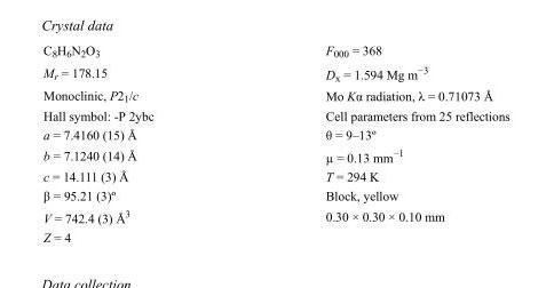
<table><tbody><tr><td>C<sub>8</sub>H<sub>6</sub>N<sub>2</sub>O<sub>3</sub></td><td>F000 = 368</td></tr><tr><td>M<sub>r</sub> = 178.15</td><td>D<sub>x</sub> = 1.594 Mg m<sup>−3</sup></td></tr><tr><td>Monoclinic, P2<sub>1</sub>/c</td><td>Mo Kα radiation, λ = 0.71073 Å</td></tr><tr><td>Hall symbol: -P 2ybc</td><td>Cell parameters from 25 reflections</td></tr><tr><td>a = 7.4160 (15) Å</td><td>θ = 9–13º</td></tr><tr><td>b = 7.1240 (14) Å</td><td>µ = 0.13 mm<sup>−1</sup></td></tr><tr><td>c = 14.111 (3) Å</td><td>T = 294 K</td></tr><tr><td>β = 95.21 (3)º</td><td>Block, yellow</td></tr><tr><td>V = 742.4 (3) Å<sup>3</sup></td><td>0.30 × 0.30 × 0.10 mm</td></tr><tr><td>Z = 4</td><td></td></tr></tbody></table>